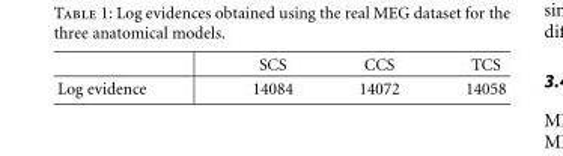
<table><thead><tr><td></td><td>SCS</td><td>CCS</td><td>TCS</td></tr></thead><tbody><tr><td>Log evidence</td><td>14084</td><td>14072</td><td>14058</td></tr></tbody></table>